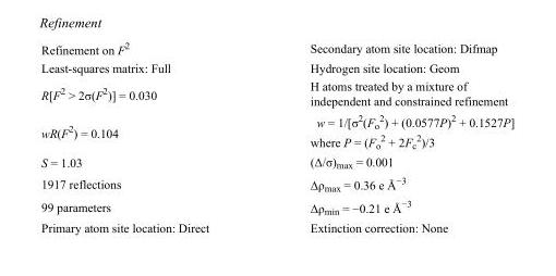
<table><tbody><tr><td>Refinement on F<sup>2</sup></td><td>Secondary atom site location: Difmap</td></tr><tr><td>Least-squares matrix: Full</td><td>Hydrogen site location: Geom</td></tr><tr><td>R[F<sup>2</sup> &gt; 2σ(F<sup>2</sup>)] = 0.030</td><td>H atoms treated by a mixture of independent and constrained refinement</td></tr><tr><td>wR(F<sup>2</sup>) = 0.104</td><td>w = 1/[σ<sup>2</sup>(F<sub>o</sub> <sup>2</sup>) + (0.0577P)<sup>2</sup> + 0.1527P] where P = (F<sub>o</sub> <sup>2</sup> + 2F<sub>c</sub> <sup>2</sup>)/3</td></tr><tr><td>S = 1.03</td><td>(Δ/σ)<sub>max</sub> = 0.001</td></tr><tr><td>1917 reflections</td><td>Δρ<sub>max</sub> = 0.36 e Å<sup>−3</sup></td></tr><tr><td>99 parameters</td><td>Δρ<sub>min</sub> = −0.21 e Å<sup>−3</sup></td></tr><tr><td>Primary atom site location: Direct</td><td>Extinction correction: None</td></tr></tbody></table>